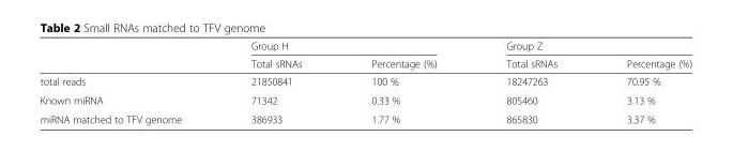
<table><thead><tr><td rowspan="2"></td><td colspan="2">Group H</td><td colspan="2">Group Z</td></tr><tr><td>Total sRNAs</td><td>Percentage (%)</td><td>Total sRNAs</td><td>Percentage (%)</td></tr></thead><tbody><tr><td>total reads</td><td>21850841</td><td>100 %</td><td>18247263</td><td>70.95 %</td></tr><tr><td>Known miRNA</td><td>71342</td><td>0.33 %</td><td>805460</td><td>3.13 %</td></tr><tr><td>miRNA matched to TFV genome</td><td>386933</td><td>1.77 %</td><td>865830</td><td>3.37 %</td></tr></tbody></table>